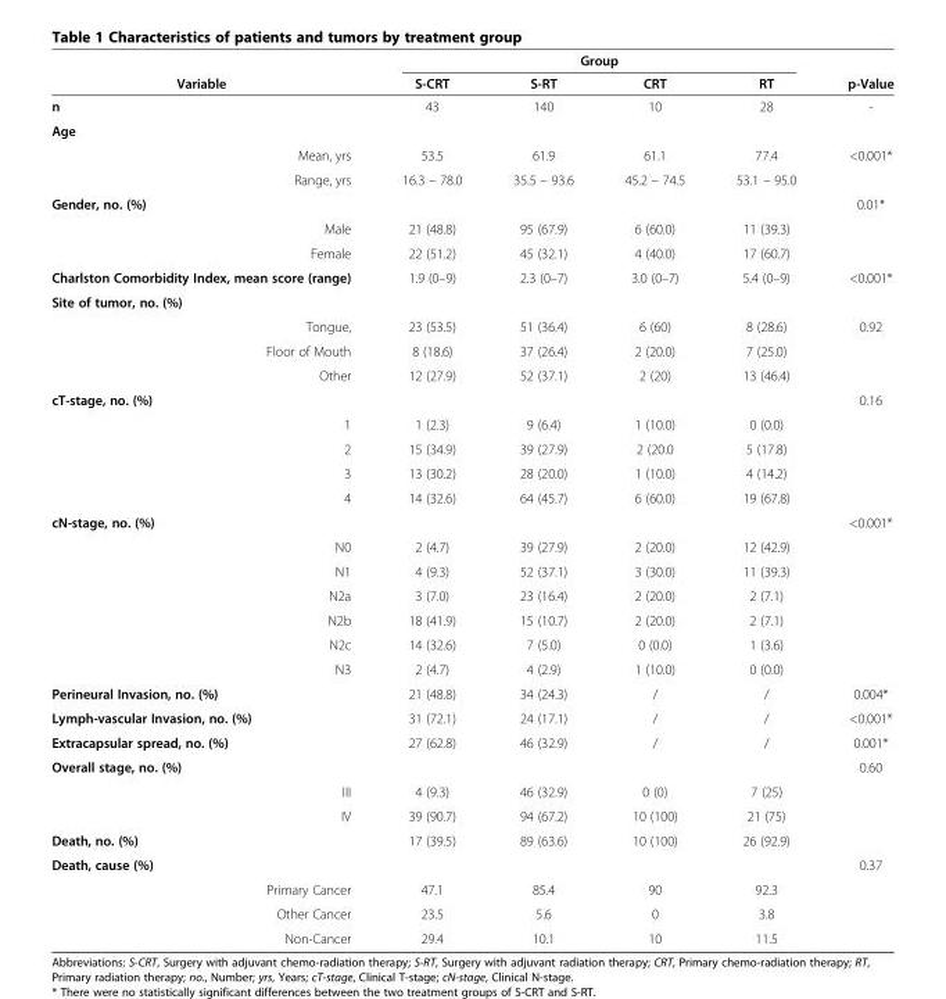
<table><thead><tr><td rowspan="2">Variable</td><td colspan="4">Group</td><td rowspan="2">p-Value</td></tr><tr><td>S-CRT</td><td>S-RT</td><td>CRT</td><td>RT</td></tr></thead><tbody><tr><td>n</td><td>43</td><td>140</td><td>10</td><td>28</td><td>-</td></tr><tr><td colspan="6">Age</td></tr><tr><td>Mean, yrs</td><td>53.5</td><td>61.9</td><td>61.1</td><td>77.4</td><td>&lt;0.001*</td></tr><tr><td>Range, yrs</td><td>16.3 – 78.0</td><td>35.5 – 93.6</td><td>45.2 – 74.5</td><td>53.1 – 95.0</td><td></td></tr><tr><td>Gender, no. (%)</td><td></td><td></td><td></td><td></td><td>0.01*</td></tr><tr><td>Male</td><td>21 (48.8)</td><td>95 (67.9)</td><td>6 (60.0)</td><td>11 (39.3)</td><td></td></tr><tr><td>Female</td><td>22 (51.2)</td><td>45 (32.1)</td><td>4 (40.0)</td><td>17 (60.7)</td><td></td></tr><tr><td>Charlston Comorbidity Index, mean score (range)</td><td>1.9 (0–9)</td><td>2.3 (0–7)</td><td>3.0 (0–7)</td><td>5.4 (0–9)</td><td>&lt;0.001*</td></tr><tr><td colspan="6">Site of tumor, no. (%)</td></tr><tr><td>Tongue,</td><td>23 (53.5)</td><td>51 (36.4)</td><td>6 (60)</td><td>8 (28.6)</td><td>0.92</td></tr><tr><td>Floor of Mouth</td><td>8 (18.6)</td><td>37 (26.4)</td><td>2 (20.0)</td><td>7 (25.0)</td><td></td></tr><tr><td>Other</td><td>12 (27.9)</td><td>52 (37.1)</td><td>2 (20)</td><td>13 (46.4)</td><td></td></tr><tr><td>cT-stage, no. (%)</td><td></td><td></td><td></td><td></td><td>0.16</td></tr><tr><td>1</td><td>1 (2.3)</td><td>9 (6.4)</td><td>1 (10.0)</td><td>0 (0.0)</td><td></td></tr><tr><td>2</td><td>15 (34.9)</td><td>39 (27.9)</td><td>2 (20.0</td><td>5 (17.8)</td><td></td></tr><tr><td>3</td><td>13 (30.2)</td><td>28 (20.0)</td><td>1 (10.0)</td><td>4 (14.2)</td><td></td></tr><tr><td>4</td><td>14 (32.6)</td><td>64 (45.7)</td><td>6 (60.0)</td><td>19 (67.8)</td><td></td></tr><tr><td>cN-stage, no. (%)</td><td></td><td></td><td></td><td></td><td>&lt;0.001*</td></tr><tr><td>N0</td><td>2 (4.7)</td><td>39 (27.9)</td><td>2 (20.0)</td><td>12 (42.9)</td><td></td></tr><tr><td>N1</td><td>4 (9.3)</td><td>52 (37.1)</td><td>3 (30.0)</td><td>11 (39.3)</td><td></td></tr><tr><td>N2a</td><td>3 (7.0)</td><td>23 (16.4)</td><td>2 (20.0)</td><td>2 (7.1)</td><td></td></tr><tr><td>N2b</td><td>18 (41.9)</td><td>15 (10.7)</td><td>2 (20.0)</td><td>2 (7.1)</td><td></td></tr><tr><td>N2c</td><td>14 (32.6)</td><td>7 (5.0)</td><td>0 (0.0)</td><td>1 (3.6)</td><td></td></tr><tr><td>N3</td><td>2 (4.7)</td><td>4 (2.9)</td><td>1 (10.0)</td><td>0 (0.0)</td><td></td></tr><tr><td>Perineural Invasion, no. (%)</td><td>21 (48.8)</td><td>34 (24.3)</td><td>/</td><td>/</td><td>0.004*</td></tr><tr><td>Lymph-vascular Invasion, no. (%)</td><td>31 (72.1)</td><td>24 (17.1)</td><td>/</td><td>/</td><td>&lt;0.001*</td></tr><tr><td>Extracapsular spread, no. (%)</td><td>27 (62.8)</td><td>46 (32.9)</td><td>/</td><td>/</td><td>0.001*</td></tr><tr><td>Overall stage, no. (%)</td><td></td><td></td><td></td><td></td><td>0.60</td></tr><tr><td>III</td><td>4 (9.3)</td><td>46 (32.9)</td><td>0 (0)</td><td>7 (25)</td><td></td></tr><tr><td>IV</td><td>39 (90.7)</td><td>94 (67.2)</td><td>10 (100)</td><td>21 (75)</td><td></td></tr><tr><td>Death, no. (%)</td><td>17 (39.5)</td><td>89 (63.6)</td><td>10 (100)</td><td>26 (92.9)</td><td></td></tr><tr><td colspan="5">Death, cause (%)</td><td rowspan="4">0.37</td></tr><tr><td>Primary Cancer</td><td>47.1</td><td>85.4</td><td>90</td><td>92.3</td></tr><tr><td>Other Cancer</td><td>23.5</td><td>5.6</td><td>0</td><td>3.8</td></tr><tr><td>Non-Cancer</td><td>29.4</td><td>10.1</td><td>10</td><td>11.5</td></tr></tbody></table>